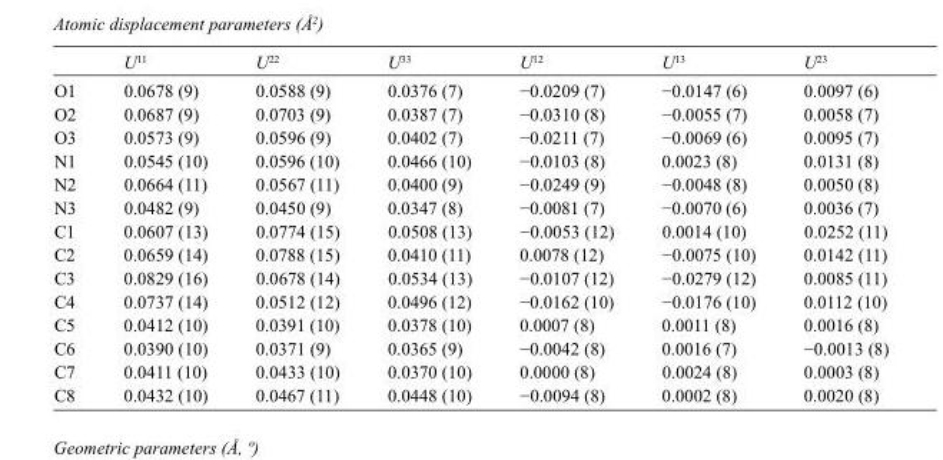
<table><thead><tr><td></td><td>U<sup>11</sup></td><td>U<sup>22</sup></td><td>U<sup>33</sup></td><td>U<sup>12</sup></td><td>U<sup>13</sup></td><td>U<sup>23</sup></td></tr></thead><tbody><tr><td>O1</td><td>0.0678 (9)</td><td>0.0588 (9)</td><td>0.0376 (7)</td><td>−0.0209 (7)</td><td>−0.0147 (6)</td><td>0.0097 (6)</td></tr><tr><td>O2</td><td>0.0687 (9)</td><td>0.0703 (9)</td><td>0.0387 (7)</td><td>−0.0310 (8)</td><td>−0.0055 (7)</td><td>0.0058 (7)</td></tr><tr><td>O3</td><td>0.0573 (9)</td><td>0.0596 (9)</td><td>0.0402 (7)</td><td>−0.0211 (7)</td><td>−0.0069 (6)</td><td>0.0095 (7)</td></tr><tr><td>N1</td><td>0.0545 (10)</td><td>0.0596 (10)</td><td>0.0466 (10)</td><td>−0.0103 (8)</td><td>0.0023 (8)</td><td>0.0131 (8)</td></tr><tr><td>N2</td><td>0.0664 (11)</td><td>0.0567 (11)</td><td>0.0400 (9)</td><td>−0.0249 (9)</td><td>−0.0048 (8)</td><td>0.0050 (8)</td></tr><tr><td>N3</td><td>0.0482 (9)</td><td>0.0450 (9)</td><td>0.0347 (8)</td><td>−0.0081 (7)</td><td>−0.0070 (6)</td><td>0.0036 (7)</td></tr><tr><td>C1</td><td>0.0607 (13)</td><td>0.0774 (15)</td><td>0.0508 (13)</td><td>−0.0053 (12)</td><td>0.0014 (10)</td><td>0.0252 (11)</td></tr><tr><td>C2</td><td>0.0659 (14)</td><td>0.0788 (15)</td><td>0.0410 (11)</td><td>0.0078 (12)</td><td>−0.0075 (10)</td><td>0.0142 (11)</td></tr><tr><td>C3</td><td>0.0829 (16)</td><td>0.0678 (14)</td><td>0.0534 (13)</td><td>−0.0107 (12)</td><td>−0.0279 (12)</td><td>0.0085 (11)</td></tr><tr><td>C4</td><td>0.0737 (14)</td><td>0.0512 (12)</td><td>0.0496 (12)</td><td>−0.0162 (10)</td><td>−0.0176 (10)</td><td>0.0112 (10)</td></tr><tr><td>C5</td><td>0.0412 (10)</td><td>0.0391 (10)</td><td>0.0378 (10)</td><td>0.0007 (8)</td><td>0.0011 (8)</td><td>0.0016 (8)</td></tr><tr><td>C6</td><td>0.0390 (10)</td><td>0.0371 (9)</td><td>0.0365 (9)</td><td>−0.0042 (8)</td><td>0.0016 (7)</td><td>−0.0013 (8)</td></tr><tr><td>C7</td><td>0.0411 (10)</td><td>0.0433 (10)</td><td>0.0370 (10)</td><td>0.0000 (8)</td><td>0.0024 (8)</td><td>0.0003 (8)</td></tr><tr><td>C8</td><td>0.0432 (10)</td><td>0.0467 (11)</td><td>0.0448 (10)</td><td>−0.0094 (8)</td><td>0.0002 (8)</td><td>0.0020 (8)</td></tr></tbody></table>